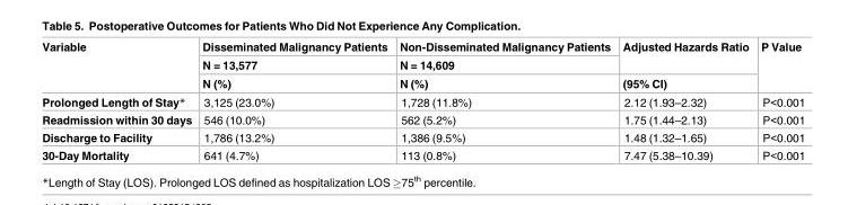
<table><thead><tr><td rowspan="3">Variable</td><td rowspan="3">Disseminated Malignancy Patients N = 13,577 N (%)</td><td rowspan="3">Non-Disseminated Malignancy Patients N = 14,609 N (%)</td><td rowspan="3">Adjusted Hazards Ratio (95% CI)</td><td rowspan="3">P Value</td></tr><tr></tr><tr></tr></thead><tbody><tr><td>Prolonged Length of Stay*</td><td>3,125 (23.0%)</td><td>1,728 (11.8%)</td><td>2.12 (1.93–2.32)</td><td>P&lt;0.001</td></tr><tr><td>Readmission within 30 days</td><td>546 (10.0%)</td><td>562 (5.2%)</td><td>1.75 (1.44–2.13)</td><td>P&lt;0.001</td></tr><tr><td>Discharge to Facility</td><td>1,786 (13.2%)</td><td>1,386 (9.5%)</td><td>1.48 (1.32–1.65)</td><td>P&lt;0.001</td></tr><tr><td>30-Day Mortality</td><td>641 (4.7%)</td><td>113 (0.8%)</td><td>7.47 (5.38–10.39)</td><td>P&lt;0.001</td></tr></tbody></table>